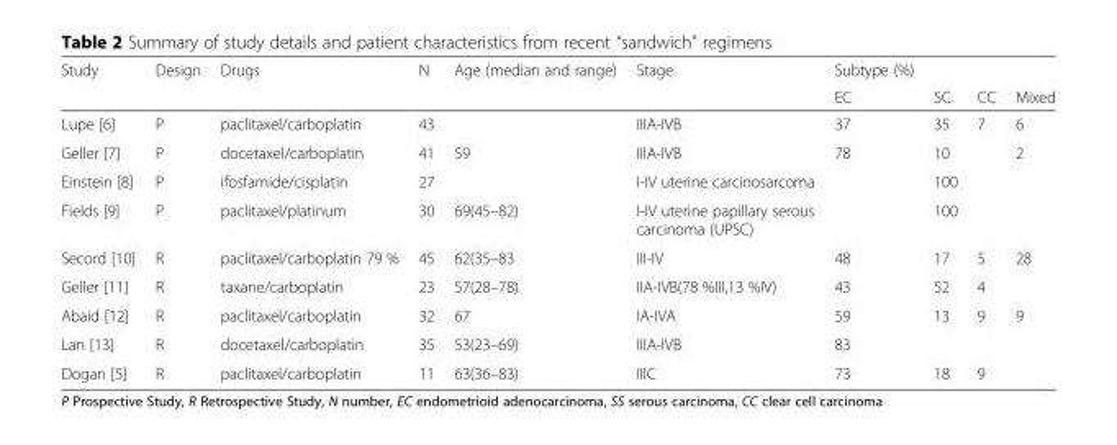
<table><thead><tr><td rowspan="2">Study</td><td rowspan="2">Design</td><td rowspan="2">Drugs</td><td rowspan="2">N</td><td rowspan="2">Age (median and range)</td><td rowspan="2">Stage</td><td rowspan="2">Subtype (%) EC</td><td rowspan="2">SC</td><td rowspan="2">CC</td><td rowspan="2">Mixed</td></tr><tr></tr></thead><tbody><tr><td>Lupe [6]</td><td>P</td><td>paclitaxel/carboplatin</td><td>43</td><td></td><td>IIIA-IVB</td><td>37</td><td>35</td><td>7</td><td>6</td></tr><tr><td>Geller [7]</td><td>P</td><td>docetaxel/carboplatin</td><td>41</td><td>59</td><td>IIIA-IVB</td><td>78</td><td>10</td><td></td><td>2</td></tr><tr><td>Einstein [8]</td><td>P</td><td>ifosfamide/cisplatin</td><td>27</td><td></td><td>I-IV uterine carcinosarcoma</td><td></td><td>100</td><td></td><td></td></tr><tr><td>Fields [9]</td><td>P</td><td>paclitaxel/platinum</td><td>30</td><td>69(45–82)</td><td>I-IV uterine papillary serous carcinoma (UPSC)</td><td></td><td>100</td><td></td><td></td></tr><tr><td>Secord [10]</td><td>R</td><td>paclitaxel/carboplatin 79 %</td><td>45</td><td>62(35–83</td><td>III-IV</td><td>48</td><td>17</td><td>5</td><td>28</td></tr><tr><td>Geller [11]</td><td>R</td><td>taxane/carboplatin</td><td>23</td><td>57(28–78)</td><td>IIA-IVB(78 %III,13 %IV)</td><td>43</td><td>52</td><td>4</td><td></td></tr><tr><td>Abaid [12]</td><td>R</td><td>paclitaxel/carboplatin</td><td>32</td><td>67</td><td>IA-IVA</td><td>59</td><td>13</td><td>9</td><td>9</td></tr><tr><td>Lan [13]</td><td>R</td><td>docetaxel/carboplatin</td><td>35</td><td>53(23–69)</td><td>IIIA-IVB</td><td>83</td><td></td><td></td><td></td></tr><tr><td>Dogan [5]</td><td>R</td><td>paclitaxel/carboplatin</td><td>11</td><td>63(36–83)</td><td>IIIC</td><td>73</td><td>18</td><td>9</td><td></td></tr></tbody></table>